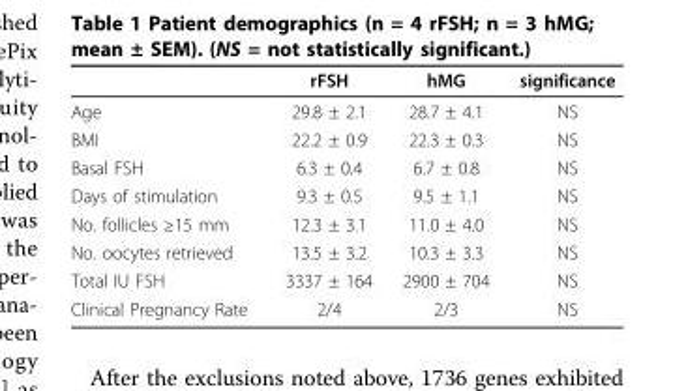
<table><thead><tr><td></td><td>rFSH</td><td>hMG</td><td>significance</td></tr></thead><tbody><tr><td>Age</td><td>29.8 ± 2.1</td><td>28.7 ± 4.1</td><td>NS</td></tr><tr><td>BMI</td><td>22.2 ± 0.9</td><td>22.3 ± 0.3</td><td>NS</td></tr><tr><td>Basal FSH</td><td>6.3 ± 0.4</td><td>6.7 ± 0.8</td><td>NS</td></tr><tr><td>Days of stimulation</td><td>9.3 ± 0.5</td><td>9.5 ± 1.1</td><td>NS</td></tr><tr><td>No. follicles ≥15 mm</td><td>12.3 ± 3.1</td><td>11.0 ± 4.0</td><td>NS</td></tr><tr><td>No. oocytes retrieved</td><td>13.5 ± 3.2</td><td>10.3 ± 3.3</td><td>NS</td></tr><tr><td>Total IU FSH</td><td>3337 ± 164</td><td>2900 ± 704</td><td>NS</td></tr><tr><td>Clinical Pregnancy Rate</td><td>2/4</td><td>2/3</td><td>NS</td></tr></tbody></table>